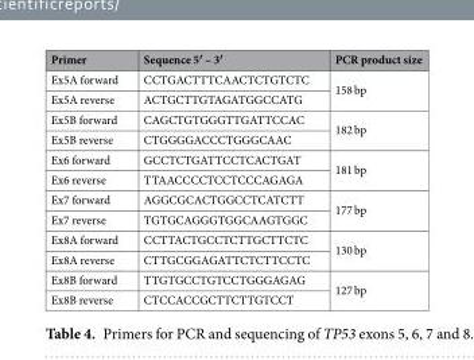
<table><thead><tr><td>Primer</td><td>Sequence 5′ – 3′</td><td>PCR product size</td></tr></thead><tbody><tr><td>Ex5A forward</td><td>CCTGACTTTCAACTCTGTCTC</td><td rowspan="2">158 bp</td></tr><tr><td>Ex5A reverse</td><td>ACTGCTTGTAGATGGCCATG</td></tr><tr><td>Ex5B forward</td><td>CAGCTGTGGGTTGATTCCAC</td><td rowspan="2">182 bp</td></tr><tr><td>Ex5B reverse</td><td>CTGGGGACCCTGGGCAAC</td></tr><tr><td>Ex6 forward</td><td>GCCTCTGATTCCTCACTGAT</td><td rowspan="2">181 bp</td></tr><tr><td>Ex6 reverse</td><td>TTAACCCCTCCTCCCAGAGA</td></tr><tr><td>Ex7 forward</td><td>AGGCGCACTGGCCTCATCTT</td><td rowspan="2">177 bp</td></tr><tr><td>Ex7 reverse</td><td>TGTGCAGGGTGGCAAGTGGC</td></tr><tr><td>Ex8A forward</td><td>CCTTACTGCCTCTTGCTTCTC</td><td rowspan="2">130 bp</td></tr><tr><td>Ex8A reverse</td><td>CTTGCGGAGATTCTCTTCCTC</td></tr><tr><td>Ex8B forward</td><td>TTGTGCCTGTCCTGGGAGAG</td><td rowspan="2">127 bp</td></tr><tr><td>Ex8B reverse</td><td>CTCCACCGCTTCTTGTCCT</td></tr></tbody></table>